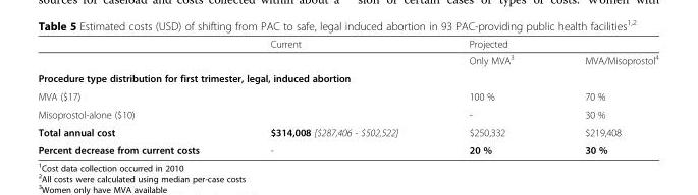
<table><thead><tr><td rowspan="2"></td><td rowspan="2">Current</td><td colspan="2">Projected</td></tr><tr><td>Only MVA<sup>3</sup></td><td>MVA/Misoprostol<sup>4</sup></td></tr></thead><tbody><tr><td colspan="4">Procedure type distribution for first trimester, legal, induced abortion</td></tr><tr><td>MVA ($17)</td><td></td><td>100 %</td><td>70 %</td></tr><tr><td>Misoprostol-alone ($10)</td><td></td><td>-</td><td>30 %</td></tr><tr><td>Total annual cost</td><td>$314,008 [$287,406 - $502,522]</td><td>$250,332</td><td>$219,408</td></tr><tr><td>Percent decrease from current costs</td><td>-</td><td>20 %</td><td>30 %</td></tr></tbody></table>